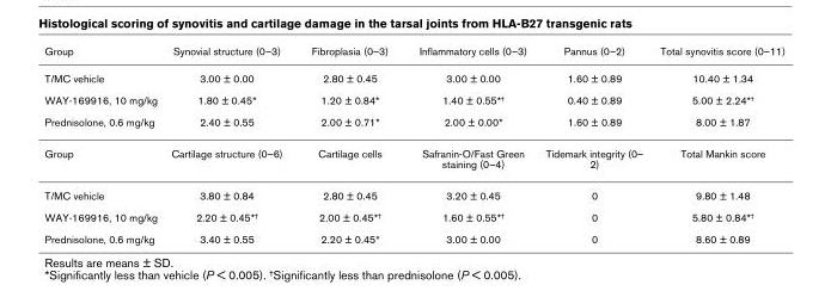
<table><thead><tr><td>Group</td><td>Synovial structure (0–3)</td><td>Fibroplasia (0–3)</td><td>Inflammatory cells (0–3)</td><td>Pannus (0–2)</td><td>Total synovitis score (0–11)</td></tr></thead><tbody><tr><td>T/MC vehicle</td><td>3.00 ± 0.00</td><td>2.80 ± 0.45</td><td>3.00 ± 0.00</td><td>1.60 ± 0.89</td><td>10.40 ± 1.34</td></tr><tr><td>WAY-169916, 10 mg/kg</td><td>1.80 ± 0.45*</td><td>1.20 ± 0.84*</td><td>1.40 ± 0.55*†</td><td>0.40 ± 0.89</td><td>5.00 ± 2.24*†</td></tr><tr><td>Prednisolone, 0.6 mg/kg</td><td>2.40 ± 0.55</td><td>2.00 ± 0.71*</td><td>2.00 ± 0.00*</td><td>1.60 ± 0.89</td><td>8.00 ± 1.87</td></tr><tr><td>Group</td><td>Cartilage structure (0–6)</td><td>Cartilage cells</td><td>Safranin-O/Fast Green staining (0–4)</td><td>Tidemark integrity (0– 2)</td><td>Total Mankin score</td></tr><tr><td>T/MC vehicle</td><td>3.80 ± 0.84</td><td>2.80 ± 0.45</td><td>3.20 ± 0.45</td><td>0</td><td>9.80 ± 1.48</td></tr><tr><td>WAY-169916, 10 mg/kg</td><td>2.20 ± 0.45*†</td><td>2.00 ± 0.45*†</td><td>1.60 ± 0.55*†</td><td>0</td><td>5.80 ± 0.84*†</td></tr><tr><td>Prednisolone, 0.6 mg/kg</td><td>3.40 ± 0.55</td><td>2.20 ± 0.45*</td><td>3.00 ± 0.00</td><td>0</td><td>8.60 ± 0.89</td></tr></tbody></table>